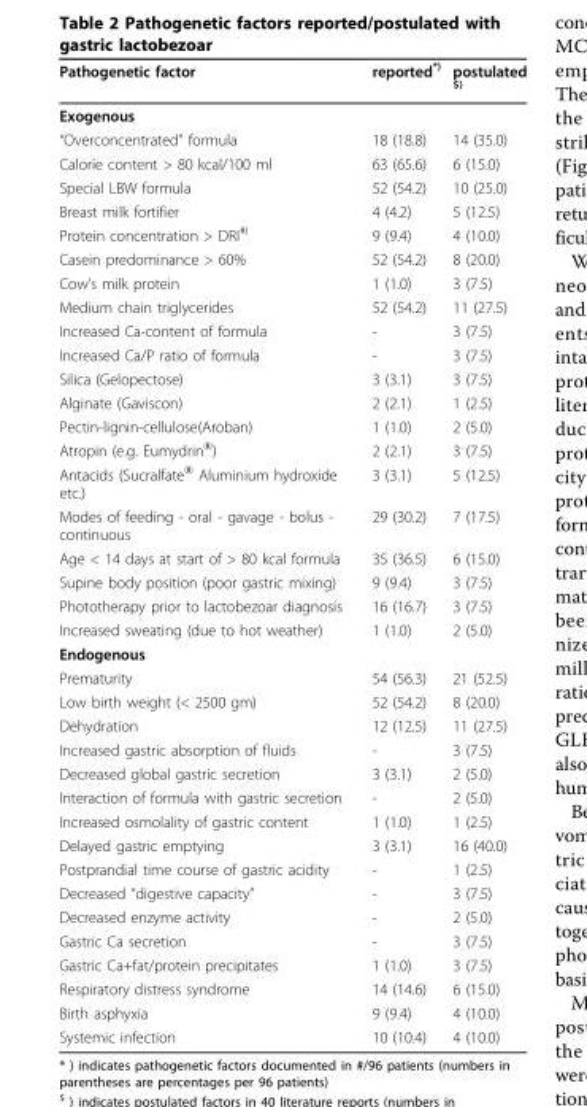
<table><thead><tr><td>Pathogenetic factor</td><td>reported<sup>*)</sup></td><td>postulated <sup>$)</sup></td></tr></thead><tbody><tr><td colspan="3">Exogenous</td></tr><tr><td>“Overconcentrated” formula</td><td>18 (18.8)</td><td>14 (35.0)</td></tr><tr><td>Calorie content &gt; 80 kcal/100 ml</td><td>63 (65.6)</td><td>6 (15.0)</td></tr><tr><td>Special LBW formula</td><td>52 (54.2)</td><td>10 (25.0)</td></tr><tr><td>Breast milk fortifier</td><td>4 (4.2)</td><td>5 (12.5)</td></tr><tr><td>Protein concentration &gt; DRI<sup>#)</sup></td><td>9 (9.4)</td><td>4 (10.0)</td></tr><tr><td>Casein predominance &gt; 60%</td><td>52 (54.2)</td><td>8 (20.0)</td></tr><tr><td>Cow’s milk protein</td><td>1 (1.0)</td><td>3 (7.5)</td></tr><tr><td>Medium chain triglycerides</td><td>52 (54.2)</td><td>11 (27.5)</td></tr><tr><td>Increased Ca-content of formula</td><td>-</td><td>3 (7.5)</td></tr><tr><td>Increased Ca/P ratio of formula</td><td>-</td><td>3 (7.5)</td></tr><tr><td>Silica (Gelopectose)</td><td>3 (3.1)</td><td>3 (7.5)</td></tr><tr><td>Alginate (Gaviscon)</td><td>2 (2.1)</td><td>1 (2.5)</td></tr><tr><td>Pectin-lignin-cellulose(Aroban)</td><td>1 (1.0)</td><td>2 (5.0)</td></tr><tr><td>Atropin (e.g. Eumydrin<sup>®</sup>)</td><td>2 (2.1)</td><td>3 (7.5)</td></tr><tr><td>Antacids (Sucralfate<sup>®</sup> Aluminium hydroxide etc.)</td><td>3 (3.1)</td><td>5 (12.5)</td></tr><tr><td>Modes of feeding - oral - gavage - bolus - continuous</td><td>29 (30.2)</td><td>7 (17.5)</td></tr><tr><td>Age &lt; 14 days at start of &gt; 80 kcal formula</td><td>35 (36.5)</td><td>6 (15.0)</td></tr><tr><td>Supine body position (poor gastric mixing)</td><td>9 (9.4)</td><td>3 (7.5)</td></tr><tr><td>Phototherapy prior to lactobezoar diagnosis</td><td>16 (16.7)</td><td>3 (7.5)</td></tr><tr><td>Increased sweating (due to hot weather)</td><td>1 (1.0)</td><td>2 (5.0)</td></tr><tr><td colspan="3">Endogenous</td></tr><tr><td>Prematurity</td><td>54 (56.3)</td><td>21 (52.5)</td></tr><tr><td>Low birth weight (&lt; 2500 gm)</td><td>52 (54.2)</td><td>8 (20.0)</td></tr><tr><td>Dehydration</td><td>12 (12.5)</td><td>11 (27.5)</td></tr><tr><td>Increased gastric absorption of fluids</td><td>-</td><td>3 (7.5)</td></tr><tr><td>Decreased global gastric secretion</td><td>3 (3.1)</td><td>2 (5.0)</td></tr><tr><td>Interaction of formula with gastric secretion</td><td>-</td><td>2 (5.0)</td></tr><tr><td>Increased osmolality of gastric content</td><td>1 (1.0)</td><td>1 (2.5)</td></tr><tr><td>Delayed gastric emptying</td><td>3 (3.1)</td><td>16 (40.0)</td></tr><tr><td>Postprandial time course of gastric acidity</td><td>-</td><td>1 (2.5)</td></tr><tr><td>Decreased “digestive capacity”</td><td>-</td><td>3 (7.5)</td></tr><tr><td>Decreased enzyme activity</td><td>-</td><td>2 (5.0)</td></tr><tr><td>Gastric Ca secretion</td><td>-</td><td>3 (7.5)</td></tr><tr><td>Gastric Ca+fat/protein precipitates</td><td>1 (1.0)</td><td>3 (7.5)</td></tr><tr><td>Respiratory distress syndrome</td><td>14 (14.6)</td><td>6 (15.0)</td></tr><tr><td>Birth asphyxia</td><td>9 (9.4)</td><td>4 (10.0)</td></tr><tr><td>Systemic infection</td><td>10 (10.4)</td><td>4 (10.0)</td></tr></tbody></table>